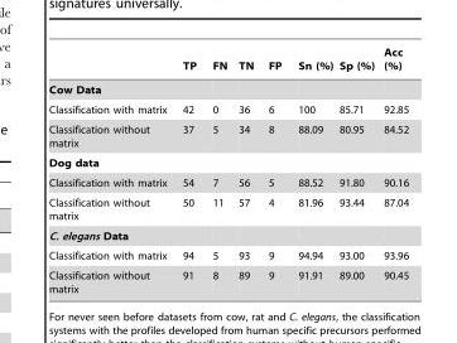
<table><thead><tr><td></td><td>TP</td><td>FN</td><td>TN</td><td>FP</td><td>Sn (%)</td><td>Sp (%)</td><td>Acc (%)</td></tr></thead><tbody><tr><td colspan="8">Cow Data</td></tr><tr><td>Classification with matrix</td><td>42</td><td>0</td><td>36</td><td>6</td><td>100</td><td>85.71</td><td>92.85</td></tr><tr><td>Classification without matrix</td><td>37</td><td>5</td><td>34</td><td>8</td><td>88.09</td><td>80.95</td><td>84.52</td></tr><tr><td colspan="8">Dog data</td></tr><tr><td>Classification with matrix</td><td>54</td><td>7</td><td>56</td><td>5</td><td>88.52</td><td>91.80</td><td>90.16</td></tr><tr><td>Classification without matrix</td><td>50</td><td>11</td><td>57</td><td>4</td><td>81.96</td><td>93.44</td><td>87.04</td></tr><tr><td colspan="8">C. elegans Data</td></tr><tr><td>Classification with matrix</td><td>94</td><td>5</td><td>93</td><td>9</td><td>94.94</td><td>93.00</td><td>93.96</td></tr><tr><td>Classification without matrix</td><td>91</td><td>8</td><td>89</td><td>9</td><td>91.91</td><td>89.00</td><td>90.45</td></tr></tbody></table>